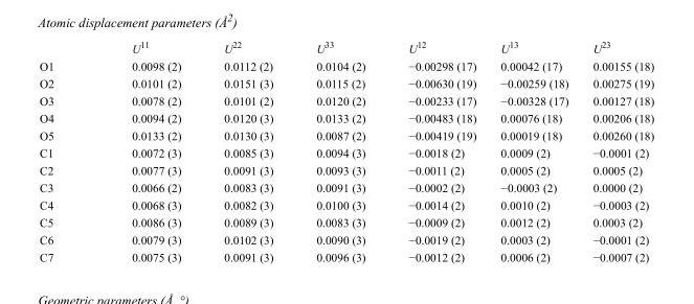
<table><thead><tr><td></td><td>U<sup>11</sup></td><td>U<sup>22</sup></td><td>U<sup>33</sup></td><td>U<sup>12</sup></td><td>U<sup>13</sup></td><td>U<sup>23</sup></td></tr></thead><tbody><tr><td>O1</td><td>0.0098 (2)</td><td>0.0112 (2)</td><td>0.0104 (2)</td><td>−0.00298 (17)</td><td>0.00042 (17)</td><td>0.00155 (18)</td></tr><tr><td>O2</td><td>0.0101 (2)</td><td>0.0151 (3)</td><td>0.0115 (2)</td><td>−0.00630 (19)</td><td>−0.00259 (18)</td><td>0.00275 (19)</td></tr><tr><td>O3</td><td>0.0078 (2)</td><td>0.0101 (2)</td><td>0.0120 (2)</td><td>−0.00233 (17)</td><td>−0.00328 (17)</td><td>0.00127 (18)</td></tr><tr><td>O4</td><td>0.0094 (2)</td><td>0.0120 (3)</td><td>0.0133 (2)</td><td>−0.00483 (18)</td><td>0.00076 (18)</td><td>0.00206 (18)</td></tr><tr><td>O5</td><td>0.0133 (2)</td><td>0.0130 (3)</td><td>0.0087 (2)</td><td>−0.00419 (19)</td><td>0.00019 (18)</td><td>0.00260 (18)</td></tr><tr><td>C1</td><td>0.0072 (3)</td><td>0.0085 (3)</td><td>0.0094 (3)</td><td>−0.0018 (2)</td><td>0.0009 (2)</td><td>−0.0001 (2)</td></tr><tr><td>C2</td><td>0.0077 (3)</td><td>0.0091 (3)</td><td>0.0093 (3)</td><td>−0.0011 (2)</td><td>0.0005 (2)</td><td>0.0005 (2)</td></tr><tr><td>C3</td><td>0.0066 (2)</td><td>0.0083 (3)</td><td>0.0091 (3)</td><td>−0.0002 (2)</td><td>−0.0003 (2)</td><td>0.0000 (2)</td></tr><tr><td>C4</td><td>0.0068 (3)</td><td>0.0082 (3)</td><td>0.0100 (3)</td><td>−0.0014 (2)</td><td>0.0010 (2)</td><td>−0.0003 (2)</td></tr><tr><td>C5</td><td>0.0086 (3)</td><td>0.0089 (3)</td><td>0.0083 (3)</td><td>−0.0009 (2)</td><td>0.0012 (2)</td><td>0.0003 (2)</td></tr><tr><td>C6</td><td>0.0079 (3)</td><td>0.0102 (3)</td><td>0.0090 (3)</td><td>−0.0019 (2)</td><td>0.0003 (2)</td><td>−0.0001 (2)</td></tr><tr><td>C7</td><td>0.0075 (3)</td><td>0.0091 (3)</td><td>0.0096 (3)</td><td>−0.0012 (2)</td><td>0.0006 (2)</td><td>−0.0007 (2)</td></tr></tbody></table>